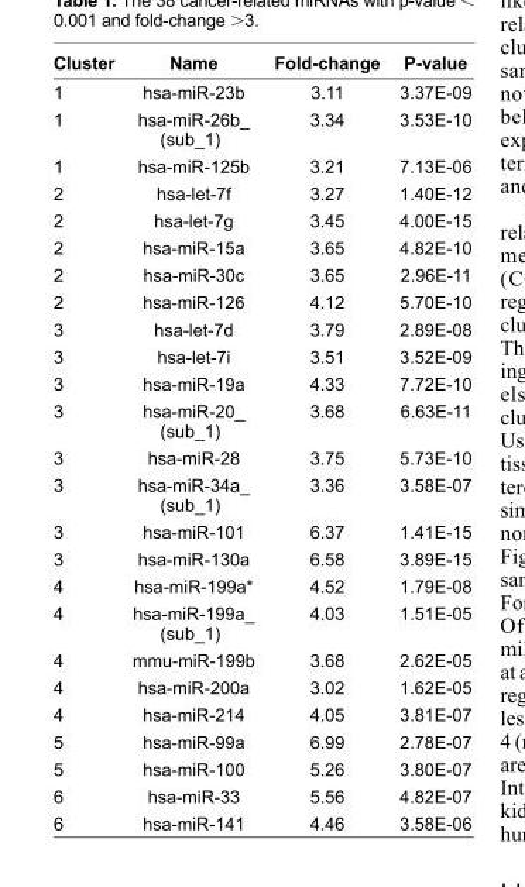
<table><thead><tr><td>Cluster</td><td>Name</td><td>Fold-change</td><td>P-value</td></tr></thead><tbody><tr><td>1</td><td>hsa-miR-23b</td><td>3.11</td><td>3.37E-09</td></tr><tr><td>1</td><td>hsa-miR-26b_ (sub_1)</td><td>3.34</td><td>3.53E-10</td></tr><tr><td>1</td><td>hsa-miR-125b</td><td>3.21</td><td>7.13E-06</td></tr><tr><td>2</td><td>hsa-let-7f</td><td>3.27</td><td>1.40E-12</td></tr><tr><td>2</td><td>hsa-let-7g</td><td>3.45</td><td>4.00E-15</td></tr><tr><td>2</td><td>hsa-miR-15a</td><td>3.65</td><td>4.82E-10</td></tr><tr><td>2</td><td>hsa-miR-30c</td><td>3.65</td><td>2.96E-11</td></tr><tr><td>2</td><td>hsa-miR-126</td><td>4.12</td><td>5.70E-10</td></tr><tr><td>3</td><td>hsa-let-7d</td><td>3.79</td><td>2.89E-08</td></tr><tr><td>3</td><td>hsa-let-7i</td><td>3.51</td><td>3.52E-09</td></tr><tr><td>3</td><td>hsa-miR-19a</td><td>4.33</td><td>7.72E-10</td></tr><tr><td>3</td><td>hsa-miR-20_ (sub_1)</td><td>3.68</td><td>6.63E-11</td></tr><tr><td>3</td><td>hsa-miR-28</td><td>3.75</td><td>5.73E-10</td></tr><tr><td>3</td><td>hsa-miR-34a_ (sub_1)</td><td>3.36</td><td>3.58E-07</td></tr><tr><td>3</td><td>hsa-miR-101</td><td>6.37</td><td>1.41E-15</td></tr><tr><td>3</td><td>hsa-miR-130a</td><td>6.58</td><td>3.89E-15</td></tr><tr><td>4</td><td>hsa-miR-199a*</td><td>4.52</td><td>1.79E-08</td></tr><tr><td>4</td><td>hsa-miR-199a_ (sub_1)</td><td>4.03</td><td>1.51E-05</td></tr><tr><td>4</td><td>mmu-miR-199b</td><td>3.68</td><td>2.62E-05</td></tr><tr><td>4</td><td>hsa-miR-200a</td><td>3.02</td><td>1.62E-05</td></tr><tr><td>4</td><td>hsa-miR-214</td><td>4.05</td><td>3.81E-07</td></tr><tr><td>5</td><td>hsa-miR-99a</td><td>6.99</td><td>2.78E-07</td></tr><tr><td>5</td><td>hsa-miR-100</td><td>5.26</td><td>3.80E-07</td></tr><tr><td>6</td><td>hsa-miR-33</td><td>5.56</td><td>4.82E-07</td></tr><tr><td>6</td><td>hsa-miR-141</td><td>4.46</td><td>3.58E-06</td></tr></tbody></table>